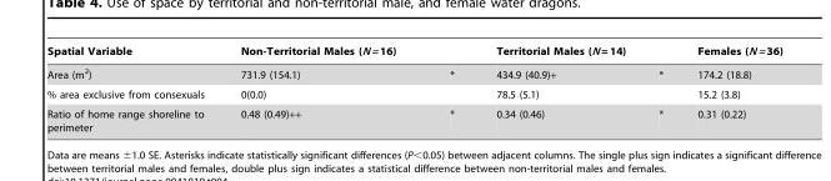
<table><thead><tr><td>Spatial Variable</td><td>Non-Territorial Males (N = 16)</td><td></td><td>Territorial Males (N = 14)</td><td></td><td>Females (N = 36)</td></tr></thead><tbody><tr><td>Area (m<sup>2</sup>)</td><td>731.9 (154.1)</td><td>*</td><td>434.9 (40.9)+</td><td>*</td><td>174.2 (18.8)</td></tr><tr><td>% area exclusive from consexuals</td><td>0(0.0)</td><td></td><td>78.5 (5.1)</td><td></td><td>15.2 (3.8)</td></tr><tr><td>Ratio of home range shoreline to perimeter</td><td>0.48 (0.49)++</td><td>*</td><td>0.34 (0.46)</td><td>*</td><td>0.31 (0.22)</td></tr></tbody></table>